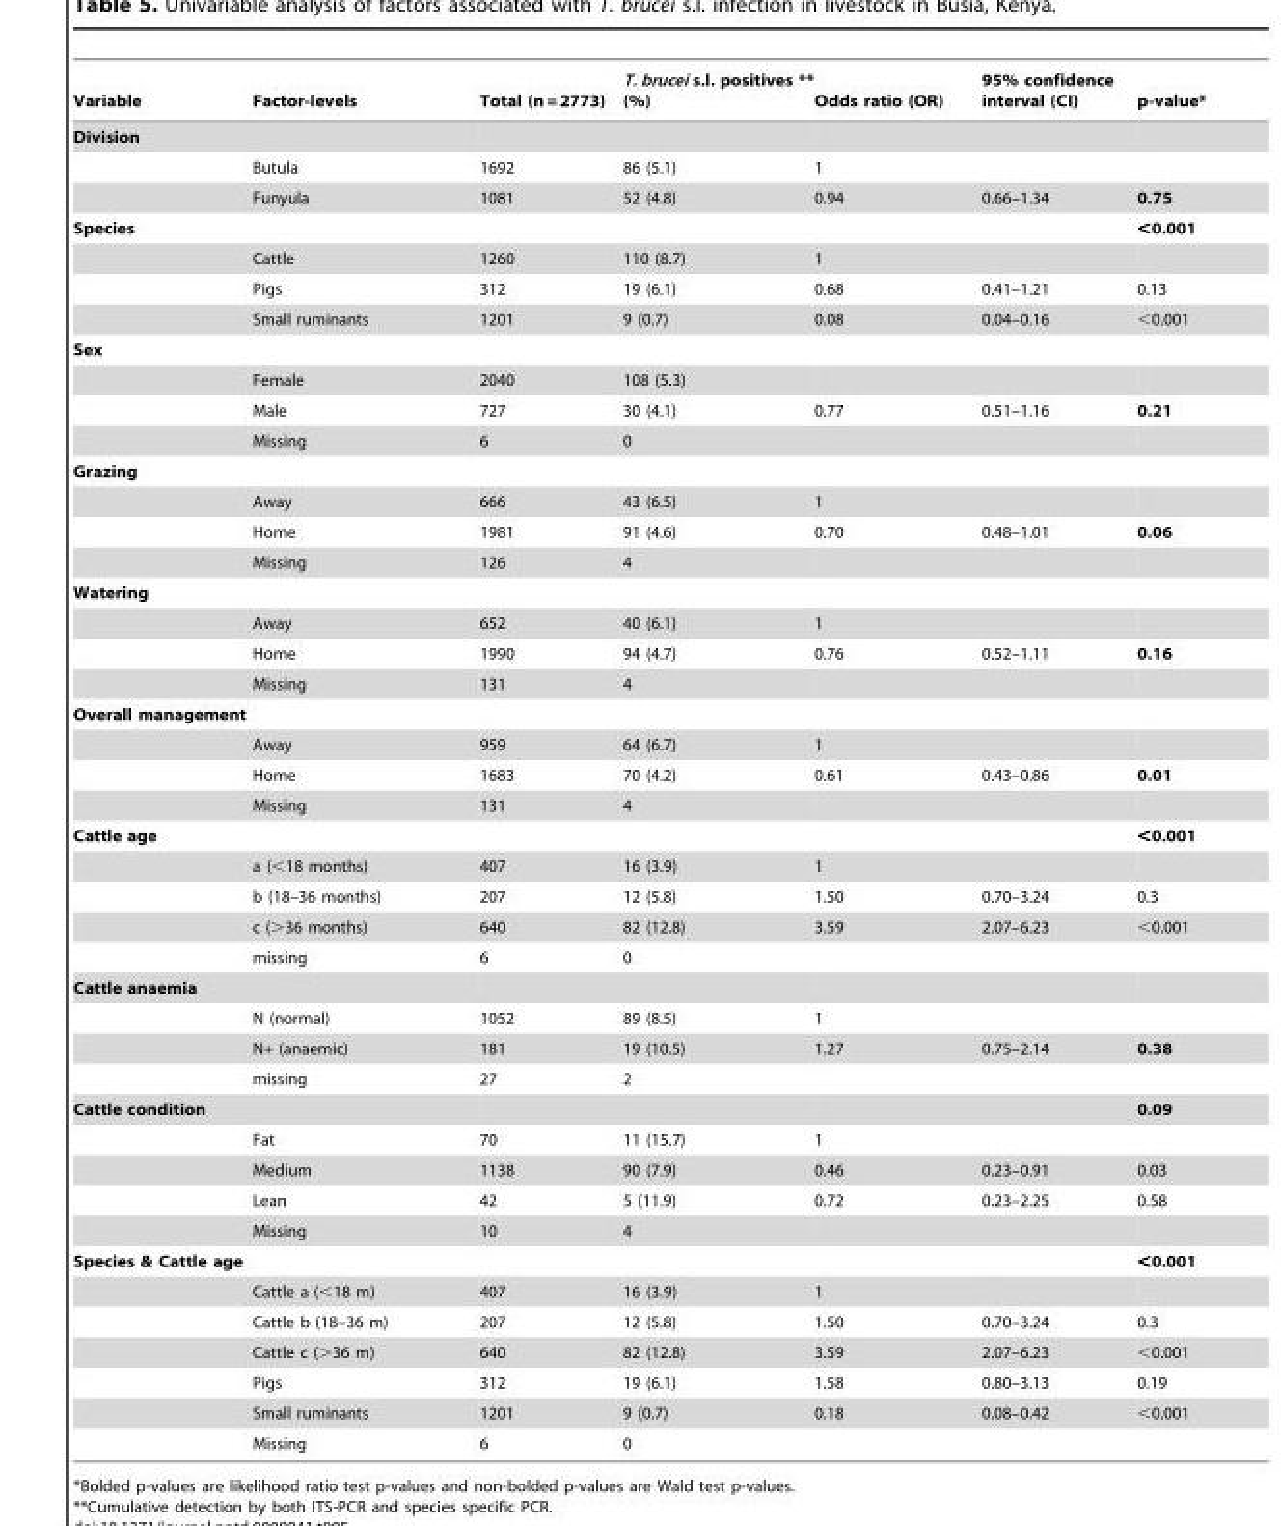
<table><thead><tr><td>Variable</td><td>Factor-levels</td><td>Total (n = 2773)</td><td>T. brucei s.l. positives ** (%)</td><td>Odds ratio (OR)</td><td>95% confidence interval (CI)</td><td>p-value*</td></tr></thead><tbody><tr><td colspan="7">Division</td></tr><tr><td></td><td>Butula</td><td>1692</td><td>86 (5.1)</td><td>1</td><td></td><td></td></tr><tr><td></td><td>Funyula</td><td>1081</td><td>52 (4.8)</td><td>0.94</td><td>0.66–1.34</td><td>0.75</td></tr><tr><td colspan="2">Species</td><td></td><td></td><td></td><td></td><td>&lt;0.001</td></tr><tr><td></td><td>Cattle</td><td>1260</td><td>110 (8.7)</td><td>1</td><td></td><td></td></tr><tr><td></td><td>Pigs</td><td>312</td><td>19 (6.1)</td><td>0.68</td><td>0.41–1.21</td><td>0.13</td></tr><tr><td></td><td>Small ruminants</td><td>1201</td><td>9 (0.7)</td><td>0.08</td><td>0.04–0.16</td><td>&lt;0.001</td></tr><tr><td colspan="7">Sex</td></tr><tr><td></td><td>Female</td><td>2040</td><td>108 (5.3)</td><td></td><td></td><td></td></tr><tr><td></td><td>Male</td><td>727</td><td>30 (4.1)</td><td>0.77</td><td>0.51–1.16</td><td>0.21</td></tr><tr><td></td><td>Missing</td><td>6</td><td>0</td><td></td><td></td><td></td></tr><tr><td colspan="7">Grazing</td></tr><tr><td></td><td>Away</td><td>666</td><td>43 (6.5)</td><td>1</td><td></td><td></td></tr><tr><td></td><td>Home</td><td>1981</td><td>91 (4.6)</td><td>0.70</td><td>0.48–1.01</td><td>0.06</td></tr><tr><td></td><td>Missing</td><td>126</td><td>4</td><td></td><td></td><td></td></tr><tr><td colspan="7">Watering</td></tr><tr><td></td><td>Away</td><td>652</td><td>40 (6.1)</td><td>1</td><td></td><td></td></tr><tr><td></td><td>Home</td><td>1990</td><td>94 (4.7)</td><td>0.76</td><td>0.52–1.11</td><td>0.16</td></tr><tr><td></td><td>Missing</td><td>131</td><td>4</td><td></td><td></td><td></td></tr><tr><td colspan="7">Overall management</td></tr><tr><td></td><td>Away</td><td>959</td><td>64 (6.7)</td><td>1</td><td></td><td></td></tr><tr><td></td><td>Home</td><td>1683</td><td>70 (4.2)</td><td>0.61</td><td>0.43–0.86</td><td>0.01</td></tr><tr><td></td><td>Missing</td><td>131</td><td>4</td><td></td><td></td><td></td></tr><tr><td colspan="2">Cattle age</td><td></td><td></td><td></td><td></td><td>&lt;0.001</td></tr><tr><td></td><td>a (&lt;18 months)</td><td>407</td><td>16 (3.9)</td><td>1</td><td></td><td></td></tr><tr><td></td><td>b (18–36 months)</td><td>207</td><td>12 (5.8)</td><td>1.50</td><td>0.70–3.24</td><td>0.3</td></tr><tr><td></td><td>c (&gt;36 months)</td><td>640</td><td>82 (12.8)</td><td>3.59</td><td>2.07–6.23</td><td>&lt;0.001</td></tr><tr><td></td><td>missing</td><td>6</td><td>0</td><td></td><td></td><td></td></tr><tr><td colspan="7">Cattle anaemia</td></tr><tr><td></td><td>N (normal)</td><td>1052</td><td>89 (8.5)</td><td>1</td><td></td><td></td></tr><tr><td></td><td>N+ (anaemic)</td><td>181</td><td>19 (10.5)</td><td>1.27</td><td>0.75–2.14</td><td>0.38</td></tr><tr><td></td><td>missing</td><td>27</td><td>2</td><td></td><td></td><td></td></tr><tr><td colspan="2">Cattle condition</td><td></td><td></td><td></td><td></td><td>0.09</td></tr><tr><td></td><td>Fat</td><td>70</td><td>11 (15.7)</td><td>1</td><td></td><td></td></tr><tr><td></td><td>Medium</td><td>1138</td><td>90 (7.9)</td><td>0.46</td><td>0.23–0.91</td><td>0.03</td></tr><tr><td></td><td>Lean</td><td>42</td><td>5 (11.9)</td><td>0.72</td><td>0.23–2.25</td><td>0.58</td></tr><tr><td></td><td>Missing</td><td>10</td><td>4</td><td></td><td></td><td></td></tr><tr><td colspan="2">Species &amp; Cattle age</td><td></td><td></td><td></td><td></td><td>&lt;0.001</td></tr><tr><td></td><td>Cattle a (&lt;18 m)</td><td>407</td><td>16 (3.9)</td><td>1</td><td></td><td></td></tr><tr><td></td><td>Cattle b (18–36 m)</td><td>207</td><td>12 (5.8)</td><td>1.50</td><td>0.70–3.24</td><td>0.3</td></tr><tr><td></td><td>Cattle c (&gt;36 m)</td><td>640</td><td>82 (12.8)</td><td>3.59</td><td>2.07–6.23</td><td>&lt;0.001</td></tr><tr><td></td><td>Pigs</td><td>312</td><td>19 (6.1)</td><td>1.58</td><td>0.80–3.13</td><td>0.19</td></tr><tr><td></td><td>Small ruminants</td><td>1201</td><td>9 (0.7)</td><td>0.18</td><td>0.08–0.42</td><td>&lt;0.001</td></tr><tr><td></td><td>Missing</td><td>6</td><td>0</td><td></td><td></td><td></td></tr></tbody></table>